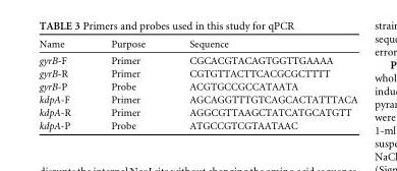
<table><thead><tr><td>Name</td><td>Purpose</td><td>Sequence</td></tr></thead><tbody><tr><td>gyrB-F</td><td>Primer</td><td>CGCACGTACAGTGGTTGAAAA</td></tr><tr><td>gyrB-R</td><td>Primer</td><td>CGTGTTACTTCACGCGCTTTT</td></tr><tr><td>gyrB-P</td><td>Probe</td><td>ACGTGCCGCCATAATA</td></tr><tr><td>kdpA-F</td><td>Primer</td><td>AGCAGGTTTGTCAGCACTATTTACA</td></tr><tr><td>kdpA-R</td><td>Primer</td><td>AGGCGTTAAGCTATCATGCATGTT</td></tr><tr><td>kdpA-P</td><td>Probe</td><td>ATGCCGTCGTAATAAC</td></tr></tbody></table>